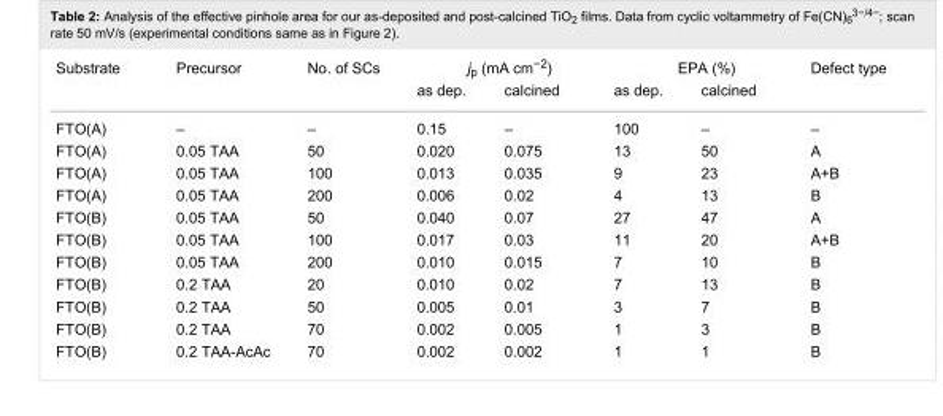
<table><tbody><tr><td rowspan="2">Substrate</td><td rowspan="2">Precursor</td><td rowspan="2">No. of SCs</td><td colspan="2">j<sub>p</sub> (mA cm<sup>−2</sup>)</td><td colspan="2">EPA (%)</td><td rowspan="2">Defect type</td></tr><tr><td>as dep.</td><td>calcined</td><td>as dep.</td><td>calcined</td></tr><tr><td>FTO(A)</td><td>–</td><td>–</td><td>0.15</td><td>–</td><td>100</td><td>–</td><td>–</td></tr><tr><td>FTO(A)</td><td>0.05 TAA</td><td>50</td><td>0.020</td><td>0.075</td><td>13</td><td>50</td><td>A</td></tr><tr><td>FTO(A)</td><td>0.05 TAA</td><td>100</td><td>0.013</td><td>0.035</td><td>9</td><td>23</td><td>A+B</td></tr><tr><td>FTO(A)</td><td>0.05 TAA</td><td>200</td><td>0.006</td><td>0.02</td><td>4</td><td>13</td><td>B</td></tr><tr><td>FTO(B)</td><td>0.05 TAA</td><td>50</td><td>0.040</td><td>0.07</td><td>27</td><td>47</td><td>A</td></tr><tr><td>FTO(B)</td><td>0.05 TAA</td><td>100</td><td>0.017</td><td>0.03</td><td>11</td><td>20</td><td>A+B</td></tr><tr><td>FTO(B)</td><td>0.05 TAA</td><td>200</td><td>0.010</td><td>0.015</td><td>7</td><td>10</td><td>B</td></tr><tr><td>FTO(B)</td><td>0.2 TAA</td><td>20</td><td>0.010</td><td>0.02</td><td>7</td><td>13</td><td>B</td></tr><tr><td>FTO(B)</td><td>0.2 TAA</td><td>50</td><td>0.005</td><td>0.01</td><td>3</td><td>7</td><td>B</td></tr><tr><td>FTO(B)</td><td>0.2 TAA</td><td>70</td><td>0.002</td><td>0.005</td><td>1</td><td>3</td><td>B</td></tr><tr><td>FTO(B)</td><td>0.2 TAA-AcAc</td><td>70</td><td>0.002</td><td>0.002</td><td>1</td><td>1</td><td>B</td></tr></tbody></table>